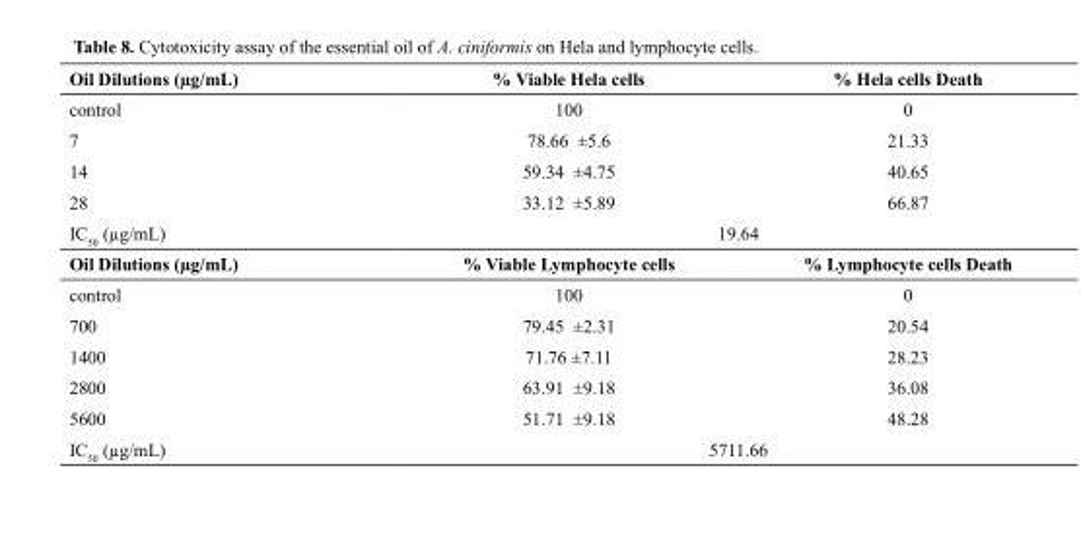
<table><thead><tr><td>Oil Dilutions (µg/mL)</td><td>% Viable Hela cells</td><td>% Hela cells Death</td></tr></thead><tbody><tr><td>control</td><td>100</td><td>0</td></tr><tr><td>7</td><td>78.66 ±5.6</td><td>21.33</td></tr><tr><td>14</td><td>59.34 ±4.75</td><td>40.65</td></tr><tr><td>28</td><td>33.12 ±5.89</td><td>66.87</td></tr><tr><td>IC<sub>50</sub> (µg/mL)</td><td colspan="2">19.64</td></tr><tr><td>Oil Dilutions (µg/mL)</td><td>% Viable Lymphocyte cells</td><td>% Lymphocyte cells Death</td></tr><tr><td>control</td><td>100</td><td>0</td></tr><tr><td>700</td><td>79.45 ±2.31</td><td>20.54</td></tr><tr><td>1400</td><td>71.76 ±7.11</td><td>28.23</td></tr><tr><td>2800</td><td>63.91 ±9.18</td><td>36.08</td></tr><tr><td>5600</td><td>51.71 ±9.18</td><td>48.28</td></tr><tr><td>IC<sub>50</sub> (µg/mL)</td><td colspan="2">5711.66</td></tr></tbody></table>